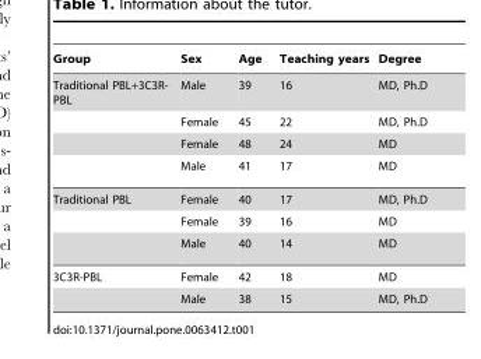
<table><thead><tr><td>Group</td><td>Sex</td><td>Age</td><td>Teaching years</td><td>Degree</td></tr></thead><tbody><tr><td rowspan="4">Traditional PBL+3C3R- PBL</td><td>Male</td><td>39</td><td>16</td><td>MD, Ph.D</td></tr><tr><td>Female</td><td>45</td><td>22</td><td>MD, Ph.D</td></tr><tr><td>Female</td><td>48</td><td>24</td><td>MD</td></tr><tr><td>Male</td><td>41</td><td>17</td><td>MD</td></tr><tr><td rowspan="3">Traditional PBL</td><td>Female</td><td>40</td><td>17</td><td>MD, Ph.D</td></tr><tr><td>Female</td><td>39</td><td>16</td><td>MD</td></tr><tr><td>Male</td><td>40</td><td>14</td><td>MD</td></tr><tr><td rowspan="2">3C3R-PBL</td><td>Female</td><td>42</td><td>18</td><td>MD</td></tr><tr><td>Male</td><td>38</td><td>15</td><td>MD, Ph.D</td></tr></tbody></table>